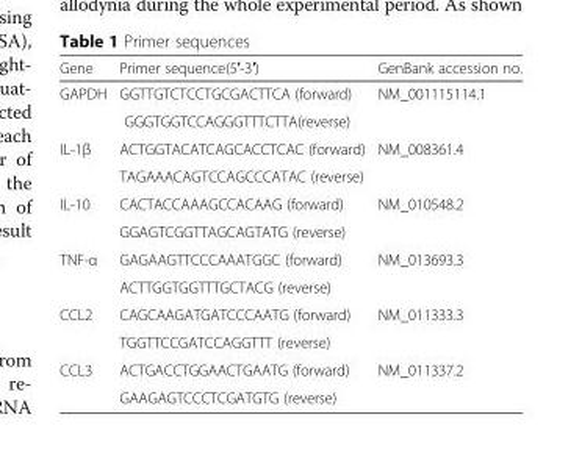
<table><thead><tr><td>Gene</td><td>Primer sequence(5′-3′)</td><td>GenBank accession no.</td></tr></thead><tbody><tr><td rowspan="2">GAPDH</td><td>GGTTGTCTCCTGCGACTTCA (forward)</td><td rowspan="2">NM_001115114.1</td></tr><tr><td>GGGTGGTCCAGGGTTTCTTA(reverse)</td></tr><tr><td rowspan="2">IL-1β</td><td>ACTGGTACATCAGCACCTCAC (forward)</td><td rowspan="2">NM_008361.4</td></tr><tr><td>TAGAAACAGTCCAGCCCATAC (reverse)</td></tr><tr><td rowspan="2">IL-10</td><td>CACTACCAAAGCCACAAG (forward)</td><td rowspan="2">NM_010548.2</td></tr><tr><td>GGAGTCGGTTAGCAGTATG (reverse)</td></tr><tr><td rowspan="2">TNF-α</td><td>GAGAAGTTCCCAAATGGC (forward)</td><td rowspan="2">NM_013693.3</td></tr><tr><td>ACTTGGTGGTTTGCTACG (reverse)</td></tr><tr><td rowspan="2">CCL2</td><td>CAGCAAGATGATCCCAATG (forward)</td><td rowspan="2">NM_011333.3</td></tr><tr><td>TGGTTCCGATCCAGGTTT (reverse)</td></tr><tr><td rowspan="2">CCL3</td><td>ACTGACCTGGAACTGAATG (forward)</td><td rowspan="2">NM_011337.2</td></tr><tr><td>GAAGAGTCCCTCGATGTG (reverse)</td></tr></tbody></table>